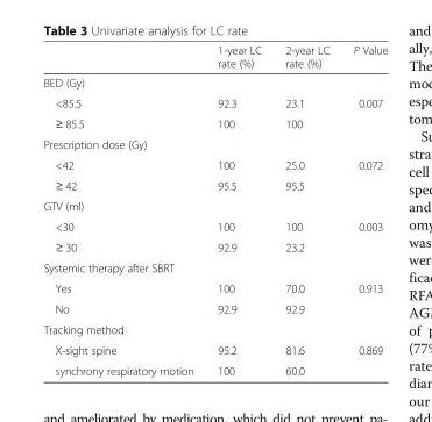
<table><thead><tr><td></td><td>1-year LC rate (%)</td><td>2-year LC rate (%)</td><td>P Value</td></tr></thead><tbody><tr><td colspan="4">BED (Gy)</td></tr><tr><td>&lt;85.5</td><td>92.3</td><td>23.1</td><td rowspan="2">0.007</td></tr><tr><td>≥ 85.5</td><td>100</td><td>100</td></tr><tr><td colspan="4">Prescription dose (Gy)</td></tr><tr><td>&lt;42</td><td>100</td><td>25.0</td><td rowspan="2">0.072</td></tr><tr><td>≥ 42</td><td>95.5</td><td>95.5</td></tr><tr><td colspan="4">GTV (ml)</td></tr><tr><td>&lt;30</td><td>100</td><td>100</td><td rowspan="2">0.003</td></tr><tr><td>≥ 30</td><td>92.9</td><td>23.2</td></tr><tr><td colspan="4">Systemic therapy after SBRT</td></tr><tr><td>Yes</td><td>100</td><td>70.0</td><td rowspan="2">0.913</td></tr><tr><td>No</td><td>92.9</td><td>92.9</td></tr><tr><td colspan="4">Tracking method</td></tr><tr><td>X-sight spine</td><td>95.2</td><td>81.6</td><td rowspan="2">0.869</td></tr><tr><td>synchrony respiratory motion</td><td>100</td><td>60.0</td></tr></tbody></table>